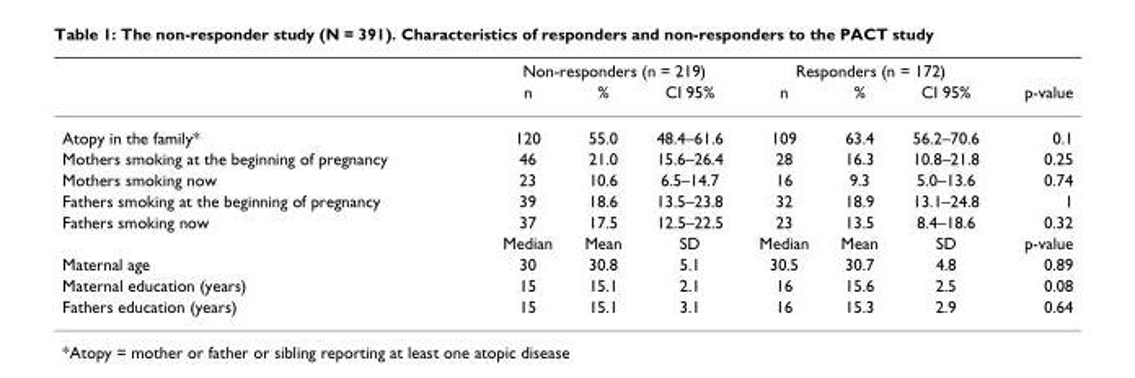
<table><thead><tr><td rowspan="2"></td><td colspan="3">Non-responders (n = 219)</td><td colspan="3">Responders (n = 172)</td><td rowspan="2">p-value</td></tr><tr><td>n</td><td>%</td><td>CI 95%</td><td>n</td><td>%</td><td>CI 95%</td></tr></thead><tbody><tr><td>Atopy in the family*</td><td>120</td><td>55.0</td><td>48.4–61.6</td><td>109</td><td>63.4</td><td>56.2–70.6</td><td>0.1</td></tr><tr><td>Mothers smoking at the beginning of pregnancy</td><td>46</td><td>21.0</td><td>15.6–26.4</td><td>28</td><td>16.3</td><td>10.8–21.8</td><td>0.25</td></tr><tr><td>Mothers smoking now</td><td>23</td><td>10.6</td><td>6.5–14.7</td><td>16</td><td>9.3</td><td>5.0–13.6</td><td>0.74</td></tr><tr><td>Fathers smoking at the beginning of pregnancy</td><td>39</td><td>18.6</td><td>13.5–23.8</td><td>32</td><td>18.9</td><td>13.1–24.8</td><td>1</td></tr><tr><td rowspan="2">Fathers smoking now</td><td>37</td><td>17.5</td><td>12.5–22.5</td><td>23</td><td>13.5</td><td>8.4–18.6</td><td>0.32</td></tr><tr><td>Median</td><td>Mean</td><td>SD</td><td>Median</td><td>Mean</td><td>SD</td><td>p-value</td></tr><tr><td>Maternal age</td><td>30</td><td>30.8</td><td>5.1</td><td>30.5</td><td>30.7</td><td>4.8</td><td>0.89</td></tr><tr><td>Maternal education (years)</td><td>15</td><td>15.1</td><td>2.1</td><td>16</td><td>15.6</td><td>2.5</td><td>0.08</td></tr><tr><td>Fathers education (years)</td><td>15</td><td>15.1</td><td>3.1</td><td>16</td><td>15.3</td><td>2.9</td><td>0.64</td></tr></tbody></table>